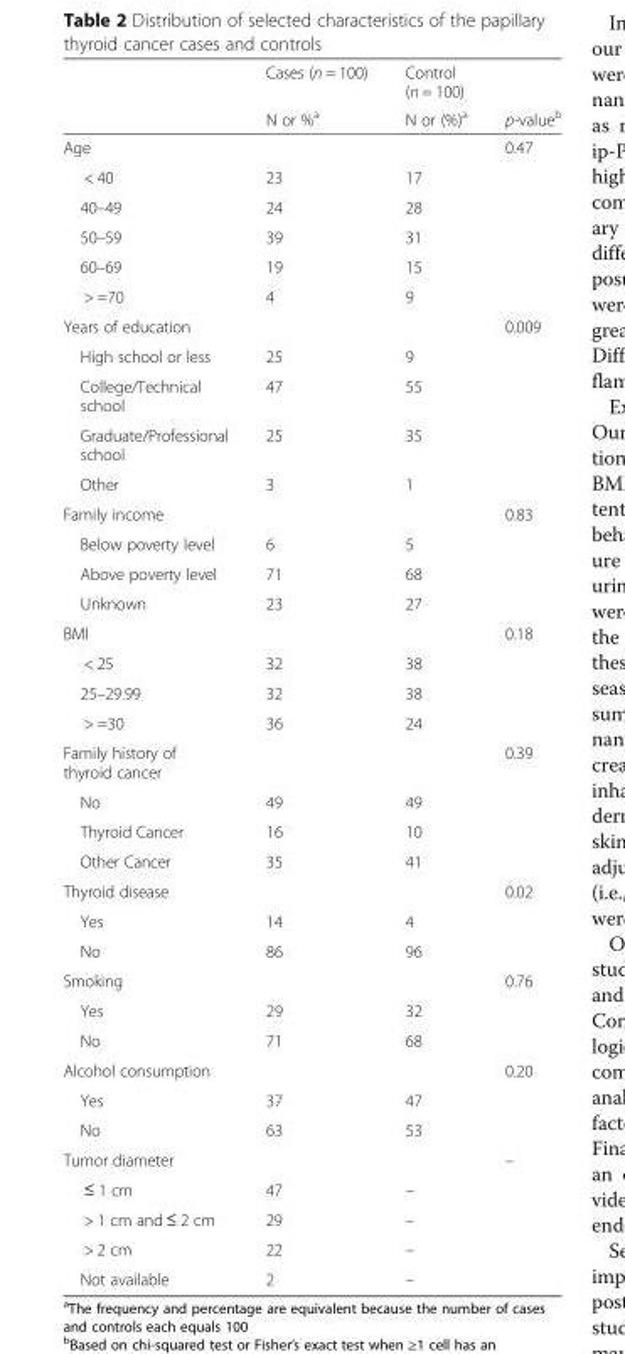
<table><thead><tr><td rowspan="2"></td><td rowspan="2">Cases (n = 100) N or %<sup>a</sup></td><td rowspan="2">Control (n = 100) N or (%)<sup>a</sup></td><td rowspan="2">p-value<sup>b</sup></td></tr><tr></tr></thead><tbody><tr><td>Age</td><td></td><td></td><td>0.47</td></tr><tr><td>&lt; 40</td><td>23</td><td>17</td><td></td></tr><tr><td>40–49</td><td>24</td><td>28</td><td></td></tr><tr><td>50–59</td><td>39</td><td>31</td><td></td></tr><tr><td>60–69</td><td>19</td><td>15</td><td></td></tr><tr><td>&gt; =70</td><td>4</td><td>9</td><td></td></tr><tr><td>Years of education</td><td></td><td></td><td>0.009</td></tr><tr><td>High school or less</td><td>25</td><td>9</td><td></td></tr><tr><td>College/Technical school</td><td>47</td><td>55</td><td></td></tr><tr><td>Graduate/Professional school</td><td>25</td><td>35</td><td></td></tr><tr><td>Other</td><td>3</td><td>1</td><td></td></tr><tr><td>Family income</td><td></td><td></td><td>0.83</td></tr><tr><td>Below poverty level</td><td>6</td><td>5</td><td></td></tr><tr><td>Above poverty level</td><td>71</td><td>68</td><td></td></tr><tr><td>Unknown</td><td>23</td><td>27</td><td></td></tr><tr><td>BMI</td><td></td><td></td><td>0.18</td></tr><tr><td>&lt; 25</td><td>32</td><td>38</td><td></td></tr><tr><td>25–29.99</td><td>32</td><td>38</td><td></td></tr><tr><td>&gt; =30</td><td>36</td><td>24</td><td></td></tr><tr><td>Family history of thyroid cancer</td><td></td><td></td><td>0.39</td></tr><tr><td>No</td><td>49</td><td>49</td><td></td></tr><tr><td>Thyroid Cancer</td><td>16</td><td>10</td><td></td></tr><tr><td>Other Cancer</td><td>35</td><td>41</td><td></td></tr><tr><td>Thyroid disease</td><td></td><td></td><td>0.02</td></tr><tr><td>Yes</td><td>14</td><td>4</td><td></td></tr><tr><td>No</td><td>86</td><td>96</td><td></td></tr><tr><td>Smoking</td><td></td><td></td><td>0.76</td></tr><tr><td>Yes</td><td>29</td><td>32</td><td></td></tr><tr><td>No</td><td>71</td><td>68</td><td></td></tr><tr><td>Alcohol consumption</td><td></td><td></td><td>0.20</td></tr><tr><td>Yes</td><td>37</td><td>47</td><td></td></tr><tr><td>No</td><td>63</td><td>53</td><td></td></tr><tr><td>Tumor diameter</td><td></td><td></td><td>–</td></tr><tr><td>≤ 1 cm</td><td>47</td><td>–</td><td></td></tr><tr><td>&gt; 1 cm and ≤ 2 cm</td><td>29</td><td>–</td><td></td></tr><tr><td>&gt; 2 cm</td><td>22</td><td>–</td><td></td></tr><tr><td>Not available</td><td>2</td><td>–</td><td></td></tr></tbody></table>